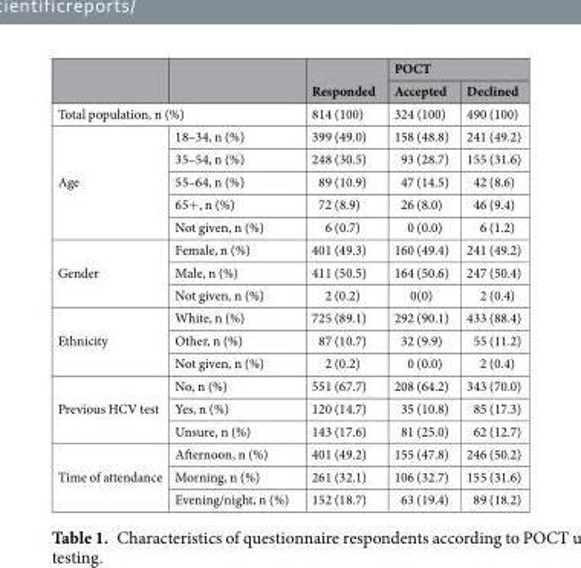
<table><thead><tr><td rowspan="2"></td><td rowspan="2"></td><td rowspan="2">Responded</td><td colspan="2">POCT</td></tr><tr><td>Accepted</td><td>Declined</td></tr></thead><tbody><tr><td colspan="2">Total population, n (%)</td><td>814 (100)</td><td>324 (100)</td><td>490 (100)</td></tr><tr><td rowspan="5">Age</td><td>18–34, n (%)</td><td>399 (49.0)</td><td>158 (48.8)</td><td>241 (49.2)</td></tr><tr><td>35–54, n (%)</td><td>248 (30.5)</td><td>93 (28.7)</td><td>155 (31.6)</td></tr><tr><td>55–64, n (%)</td><td>89 (10.9)</td><td>47 (14.5)</td><td>42 (8.6)</td></tr><tr><td>65+, n (%)</td><td>72 (8.9)</td><td>26 (8.0)</td><td>46 (9.4)</td></tr><tr><td>Not given, n (%)</td><td>6 (0.7)</td><td>0 (0.0)</td><td>6 (1.2)</td></tr><tr><td rowspan="3">Gender</td><td>Female, n (%)</td><td>401 (49.3)</td><td>160 (49.4)</td><td>241 (49.2)</td></tr><tr><td>Male, n (%)</td><td>411 (50.5)</td><td>164 (50.6)</td><td>247 (50.4)</td></tr><tr><td>Not given, n (%)</td><td>2 (0.2)</td><td>0(0)</td><td>2 (0.4)</td></tr><tr><td rowspan="3">Ethnicity</td><td>White, n (%)</td><td>725 (89.1)</td><td>292 (90.1)</td><td>433 (88.4)</td></tr><tr><td>Other, n (%)</td><td>87 (10.7)</td><td>32 (9.9)</td><td>55 (11.2)</td></tr><tr><td>Not given, n (%)</td><td>2 (0.2)</td><td>0 (0.0)</td><td>2 (0.4)</td></tr><tr><td rowspan="3">Previous HCV test</td><td>No, n (%)</td><td>551 (67.7)</td><td>208 (64.2)</td><td>343 (70.0)</td></tr><tr><td>Yes, n (%)</td><td>120 (14.7)</td><td>35 (10.8)</td><td>85 (17.3)</td></tr><tr><td>Unsure, n (%)</td><td>143 (17.6)</td><td>81 (25.0)</td><td>62 (12.7)</td></tr><tr><td rowspan="3">Time of attendance</td><td>Afternoon, n (%)</td><td>401 (49.2)</td><td>155 (47.8)</td><td>246 (50.2)</td></tr><tr><td>Morning, n (%)</td><td>261 (32.1)</td><td>106 (32.7)</td><td>155 (31.6)</td></tr><tr><td>Evening/night, n (%)</td><td>152 (18.7)</td><td>63 (19.4)</td><td>89 (18.2)</td></tr></tbody></table>